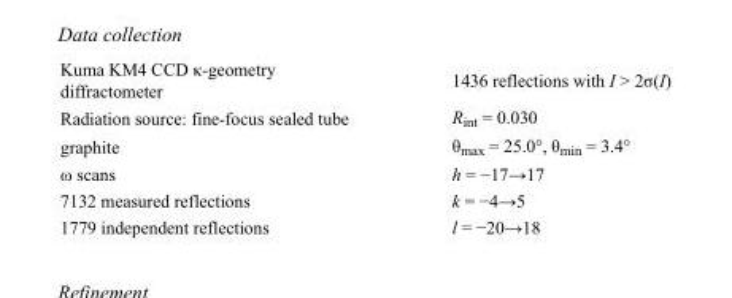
<table><tbody><tr><td>Kuma KM4 CCD κ-geometry diffractometer</td><td>1436 reflections with I &gt; 2σ(I)</td></tr><tr><td>Radiation source: fine-focus sealed tube</td><td>R<sub>int</sub> = 0.030</td></tr><tr><td>graphite</td><td>θ<sub>max</sub> = 25.0°, θ<sub>min</sub> = 3.4°</td></tr><tr><td>ω scans</td><td>h = −17→17</td></tr><tr><td>7132 measured reflections</td><td>k = −4→5</td></tr><tr><td>1779 independent reflections</td><td>l = −20→18</td></tr></tbody></table>